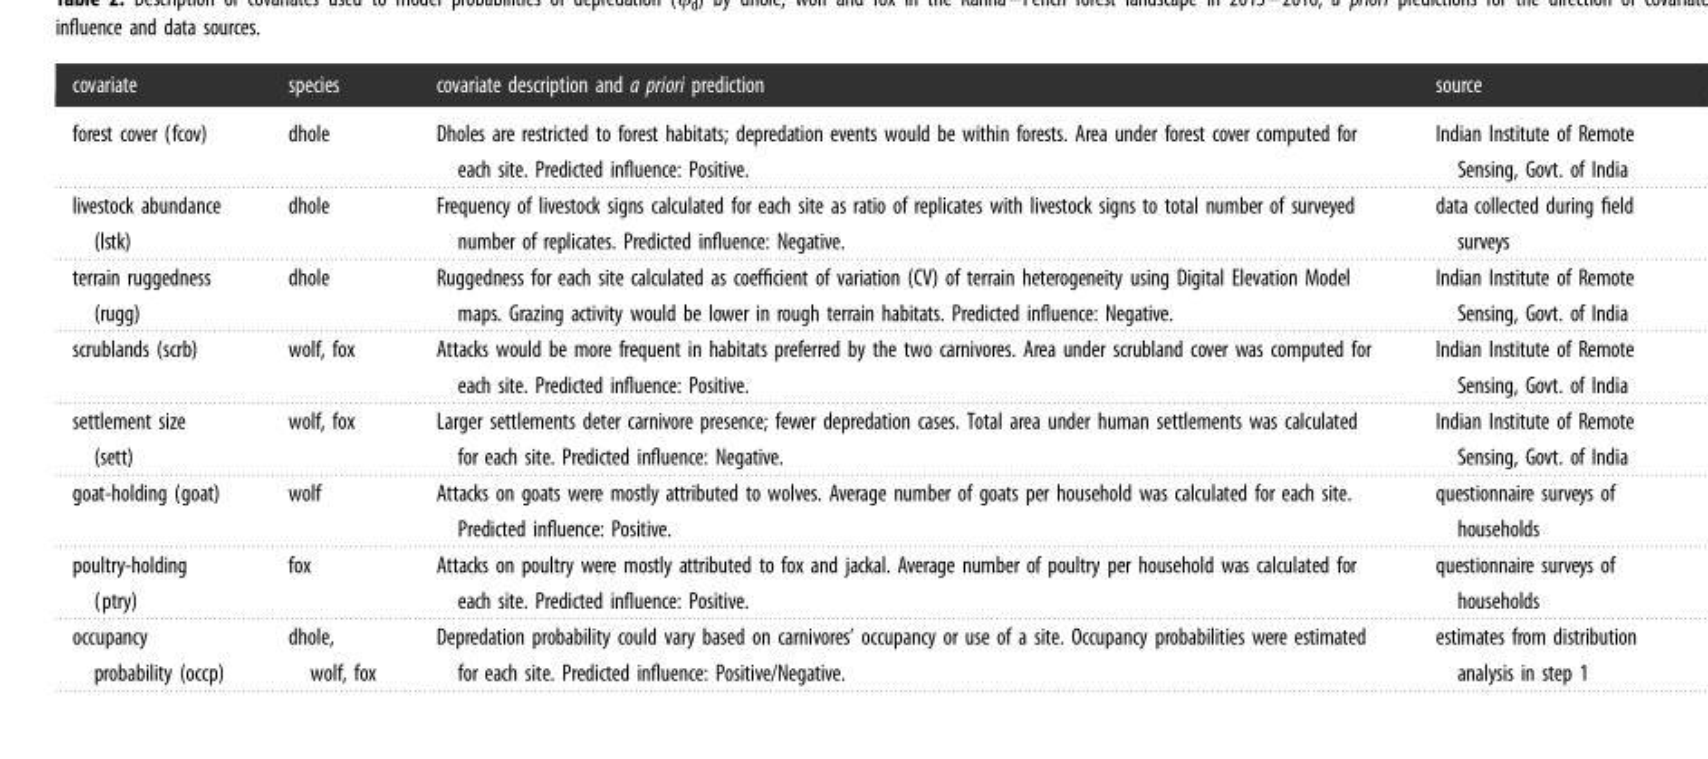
<table><thead><tr><td>covariate</td><td>species</td><td>covariate description and a priori prediction</td><td>source</td></tr></thead><tbody><tr><td>forest cover (fcov)</td><td>dhole</td><td>Dholes are restricted to forest habitats; depredation events would be within forests. Area under forest cover computed for each site. Predicted influence: Positive.</td><td>Indian Institute of Remote Sensing, Govt. of India</td></tr><tr><td>livestock abundance (lstk)</td><td>dhole</td><td>Frequency of livestock signs calculated for each site as ratio of replicates with livestock signs to total number of surveyed number of replicates. Predicted influence: Negative.</td><td>data collected during field surveys</td></tr><tr><td>terrain ruggedness (rugg)</td><td>dhole</td><td>Ruggedness for each site calculated as coefficient of variation (CV) of terrain heterogeneity using Digital Elevation Model maps. Grazing activity would be lower in rough terrain habitats. Predicted influence: Negative.</td><td>Indian Institute of Remote Sensing, Govt. of India</td></tr><tr><td>scrublands (scrb)</td><td>wolf, fox</td><td>Attacks would be more frequent in habitats preferred by the two carnivores. Area under scrubland cover was computed for each site. Predicted influence: Positive.</td><td>Indian Institute of Remote Sensing, Govt. of India</td></tr><tr><td>settlement size (sett)</td><td>wolf, fox</td><td>Larger settlements deter carnivore presence; fewer depredation cases. Total area under human settlements was calculated for each site. Predicted influence: Negative.</td><td>Indian Institute of Remote Sensing, Govt. of India</td></tr><tr><td>goat-holding (goat)</td><td>wolf</td><td>Attacks on goats were mostly attributed to wolves. Average number of goats per household was calculated for each site. Predicted influence: Positive.</td><td>questionnaire surveys of households</td></tr><tr><td>poultry-holding (ptry)</td><td>fox</td><td>Attacks on poultry were mostly attributed to fox and jackal. Average number of poultry per household was calculated for each site. Predicted influence: Positive.</td><td>questionnaire surveys of households</td></tr><tr><td>occupancy probability (occp)</td><td>dhole, wolf, fox</td><td>Depredation probability could vary based on carnivores’ occupancy or use of a site. Occupancy probabilities were estimated for each site. Predicted influence: Positive/Negative.</td><td>estimates from distribution analysis in step 1</td></tr></tbody></table>